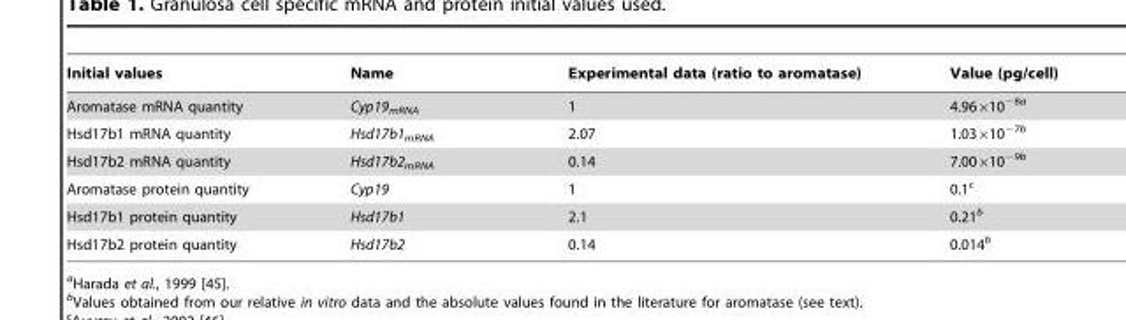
<table><thead><tr><td>Initial values</td><td>Name</td><td>Experimental data (ratio to aromatase)</td><td>Value (pg/cell)</td></tr></thead><tbody><tr><td>Aromatase mRNA quantity</td><td>Cyp19<sub>mRNA</sub></td><td>1</td><td>4.96×10<sup>−8</sup>a</td></tr><tr><td>Hsd17b1 mRNA quantity</td><td>Hsd17b1<sub>mRNA</sub></td><td>2.07</td><td>1.03×10<sup>−7</sup>b</td></tr><tr><td>Hsd17b2 mRNA quantity</td><td>Hsd17b2<sub>mRNA</sub></td><td>0.14</td><td>7.00×10<sup>−9</sup>b</td></tr><tr><td>Aromatase protein quantity</td><td>Cyp19</td><td>1</td><td>0.1<sup>c</sup></td></tr><tr><td>Hsd17b1 protein quantity</td><td>Hsd17b1</td><td>2.1</td><td>0.21<sup>b</sup></td></tr><tr><td>Hsd17b2 protein quantity</td><td>Hsd17b2</td><td>0.14</td><td>0.014<sup>b</sup></td></tr></tbody></table>